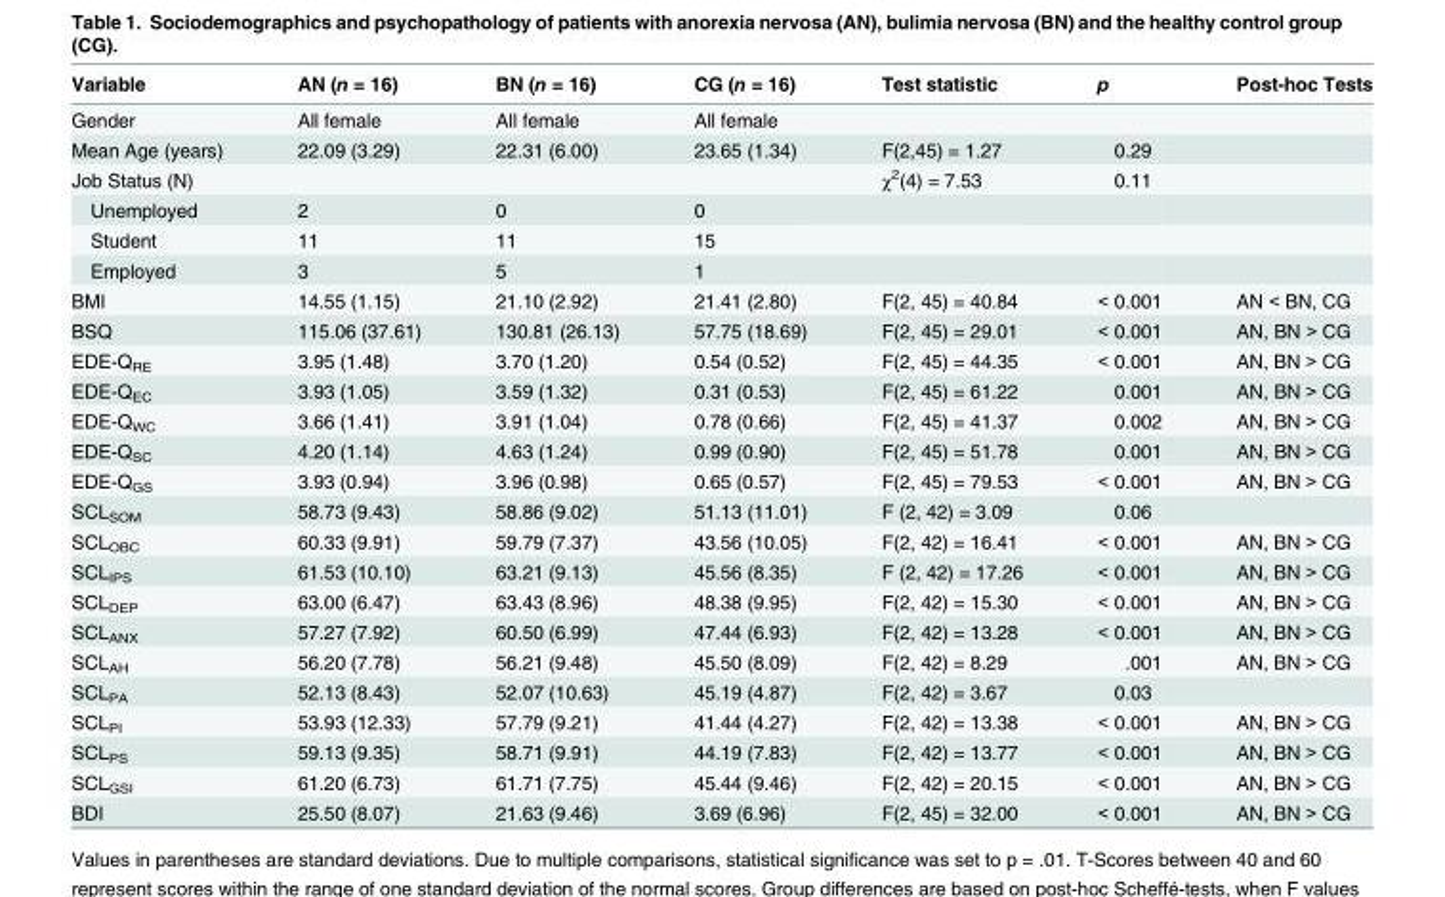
<table><thead><tr><td>Variable</td><td>AN (n = 16)</td><td>BN (n = 16)</td><td>CG (n = 16)</td><td>Test statistic</td><td>p</td><td>Post-hoc Tests</td></tr></thead><tbody><tr><td>Gender</td><td>All female</td><td>All female</td><td>All female</td><td></td><td></td><td></td></tr><tr><td>Mean Age (years)</td><td>22.09 (3.29)</td><td>22.31 (6.00)</td><td>23.65 (1.34)</td><td>F(2,45) = 1.27</td><td>0.29</td><td></td></tr><tr><td>Job Status (N)</td><td></td><td></td><td></td><td>χ<sup>2</sup>(4) = 7.53</td><td>0.11</td><td></td></tr><tr><td>Unemployed</td><td>2</td><td>0</td><td>0</td><td></td><td></td><td></td></tr><tr><td>Student</td><td>11</td><td>11</td><td>15</td><td></td><td></td><td></td></tr><tr><td>Employed</td><td>3</td><td>5</td><td>1</td><td></td><td></td><td></td></tr><tr><td>BMI</td><td>14.55 (1.15)</td><td>21.10 (2.92)</td><td>21.41 (2.80)</td><td>F(2, 45) = 40.84</td><td>&lt; 0.001</td><td>AN &lt; BN, CG</td></tr><tr><td>BSQ</td><td>115.06 (37.61)</td><td>130.81 (26.13)</td><td>57.75 (18.69)</td><td>F(2, 45) = 29.01</td><td>&lt; 0.001</td><td>AN, BN &gt; CG</td></tr><tr><td>EDE-Q<sub>RE</sub></td><td>3.95 (1.48)</td><td>3.70 (1.20)</td><td>0.54 (0.52)</td><td>F(2, 45) = 44.35</td><td>&lt; 0.001</td><td>AN, BN &gt; CG</td></tr><tr><td>EDE-Q<sub>EC</sub></td><td>3.93 (1.05)</td><td>3.59 (1.32)</td><td>0.31 (0.53)</td><td>F(2, 45) = 61.22</td><td>0.001</td><td>AN, BN &gt; CG</td></tr><tr><td>EDE-Q<sub>WC</sub></td><td>3.66 (1.41)</td><td>3.91 (1.04)</td><td>0.78 (0.66)</td><td>F(2, 45) = 41.37</td><td>0.002</td><td>AN, BN &gt; CG</td></tr><tr><td>EDE-Q<sub>SC</sub></td><td>4.20 (1.14)</td><td>4.63 (1.24)</td><td>0.99 (0.90)</td><td>F(2, 45) = 51.78</td><td>0.001</td><td>AN, BN &gt; CG</td></tr><tr><td>EDE-Q<sub>GS</sub></td><td>3.93 (0.94)</td><td>3.96 (0.98)</td><td>0.65 (0.57)</td><td>F(2, 45) = 79.53</td><td>&lt; 0.001</td><td>AN, BN &gt; CG</td></tr><tr><td>SCL<sub>SOM</sub></td><td>58.73 (9.43)</td><td>58.86 (9.02)</td><td>51.13 (11.01)</td><td>F (2, 42) = 3.09</td><td>0.06</td><td></td></tr><tr><td>SCL<sub>OBC</sub></td><td>60.33 (9.91)</td><td>59.79 (7.37)</td><td>43.56 (10.05)</td><td>F(2, 42) = 16.41</td><td>&lt; 0.001</td><td>AN, BN &gt; CG</td></tr><tr><td>SCL<sub>IPS</sub></td><td>61.53 (10.10)</td><td>63.21 (9.13)</td><td>45.56 (8.35)</td><td>F (2, 42) = 17.26</td><td>&lt; 0.001</td><td>AN, BN &gt; CG</td></tr><tr><td>SCL<sub>DEP</sub></td><td>63.00 (6.47)</td><td>63.43 (8.96)</td><td>48.38 (9.95)</td><td>F(2, 42) = 15.30</td><td>&lt; 0.001</td><td>AN, BN &gt; CG</td></tr><tr><td>SCL<sub>ANX</sub></td><td>57.27 (7.92)</td><td>60.50 (6.99)</td><td>47.44 (6.93)</td><td>F(2, 42) = 13.28</td><td>&lt; 0.001</td><td>AN, BN &gt; CG</td></tr><tr><td>SCL<sub>AH</sub></td><td>56.20 (7.78)</td><td>56.21 (9.48)</td><td>45.50 (8.09)</td><td>F(2, 42) = 8.29</td><td>.001</td><td>AN, BN &gt; CG</td></tr><tr><td>SCL<sub>PA</sub></td><td>52.13 (8.43)</td><td>52.07 (10.63)</td><td>45.19 (4.87)</td><td>F(2, 42) = 3.67</td><td>0.03</td><td></td></tr><tr><td>SCL<sub>PI</sub></td><td>53.93 (12.33)</td><td>57.79 (9.21)</td><td>41.44 (4.27)</td><td>F(2, 42) = 13.38</td><td>&lt; 0.001</td><td>AN, BN &gt; CG</td></tr><tr><td>SCL<sub>PS</sub></td><td>59.13 (9.35)</td><td>58.71 (9.91)</td><td>44.19 (7.83)</td><td>F(2, 42) = 13.77</td><td>&lt; 0.001</td><td>AN, BN &gt; CG</td></tr><tr><td>SCL<sub>GSI</sub></td><td>61.20 (6.73)</td><td>61.71 (7.75)</td><td>45.44 (9.46)</td><td>F(2, 42) = 20.15</td><td>&lt; 0.001</td><td>AN, BN &gt; CG</td></tr><tr><td>BDI</td><td>25.50 (8.07)</td><td>21.63 (9.46)</td><td>3.69 (6.96)</td><td>F(2, 45) = 32.00</td><td>&lt; 0.001</td><td>AN, BN &gt; CG</td></tr></tbody></table>